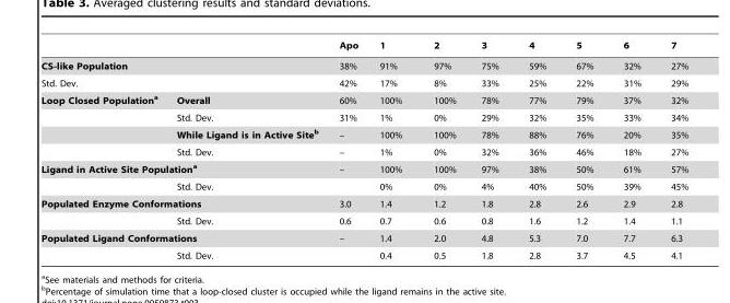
<table><thead><tr><td></td><td></td><td>Apo</td><td>1</td><td>2</td><td>3</td><td>4</td><td>5</td><td>6</td><td>7</td></tr></thead><tbody><tr><td colspan="2">CS-like Population</td><td>38%</td><td>91%</td><td>97%</td><td>75%</td><td>59%</td><td>67%</td><td>32%</td><td>27%</td></tr><tr><td colspan="2">Std. Dev.</td><td>42%</td><td>17%</td><td>8%</td><td>33%</td><td>25%</td><td>22%</td><td>31%</td><td>29%</td></tr><tr><td rowspan="4">Loop Closed Populationa</td><td>Overall</td><td>60%</td><td>100%</td><td>100%</td><td>78%</td><td>77%</td><td>79%</td><td>37%</td><td>32%</td></tr><tr><td>Std. Dev.</td><td>31%</td><td>1%</td><td>0%</td><td>29%</td><td>32%</td><td>35%</td><td>33%</td><td>34%</td></tr><tr><td>While Ligand is in Active Siteb</td><td>–</td><td>100%</td><td>100%</td><td>78%</td><td>88%</td><td>76%</td><td>20%</td><td>35%</td></tr><tr><td>Std. Dev.</td><td>–</td><td>1%</td><td>0%</td><td>32%</td><td>36%</td><td>46%</td><td>18%</td><td>27%</td></tr><tr><td colspan="2">Ligand in Active Site Populationa</td><td>–</td><td>100%</td><td>100%</td><td>97%</td><td>38%</td><td>50%</td><td>61%</td><td>57%</td></tr><tr><td></td><td>Std. Dev.</td><td></td><td>0%</td><td>0%</td><td>4%</td><td>40%</td><td>50%</td><td>39%</td><td>45%</td></tr><tr><td colspan="2">Populated Enzyme Conformations</td><td>3.0</td><td>1.4</td><td>1.2</td><td>1.8</td><td>2.8</td><td>2.6</td><td>2.9</td><td>2.8</td></tr><tr><td></td><td>Std. Dev.</td><td>0.6</td><td>0.7</td><td>0.6</td><td>0.8</td><td>1.6</td><td>1.2</td><td>1.4</td><td>1.1</td></tr><tr><td colspan="2">Populated Ligand Conformations</td><td>–</td><td>1.4</td><td>2.0</td><td>4.8</td><td>5.3</td><td>7.0</td><td>7.7</td><td>6.3</td></tr><tr><td></td><td>Std. Dev.</td><td></td><td>0.4</td><td>0.5</td><td>1.8</td><td>2.8</td><td>3.7</td><td>4.5</td><td>4.1</td></tr></tbody></table>